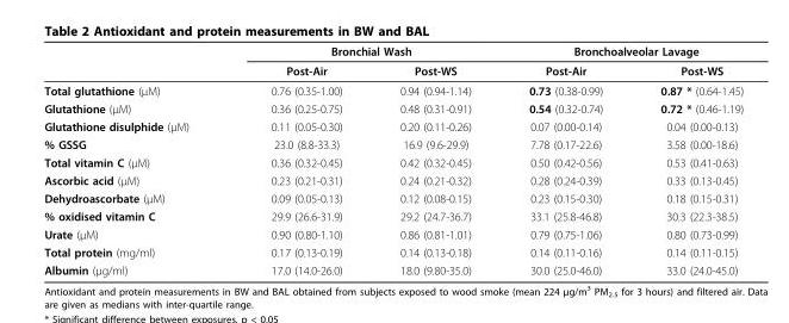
<table><thead><tr><td rowspan="2"></td><td colspan="2">Bronchial Wash</td><td colspan="2">Bronchoalveolar Lavage</td></tr><tr><td>Post-Air</td><td>Post-WS</td><td>Post-Air</td><td>Post-WS</td></tr></thead><tbody><tr><td>Total glutathione (μM)</td><td>0.76 (0.35-1.00)</td><td>0.94 (0.94-1.14)</td><td>0.73 (0.38-0.99)</td><td>0.87 * (0.64-1.45)</td></tr><tr><td>Glutathione (μM)</td><td>0.36 (0.25-0.75)</td><td>0.48 (0.31-0.91)</td><td>0.54 (0.32-0.74)</td><td>0.72 * (0.46-1.19)</td></tr><tr><td>Glutathione disulphide (μM)</td><td>0.11 (0.05-0.30)</td><td>0.20 (0.11-0.26)</td><td>0.07 (0.00-0.14)</td><td>0.04 (0.00-0.13)</td></tr><tr><td>% GSSG</td><td>23.0 (8.8-33.3)</td><td>16.9 (9.6-29.9)</td><td>7.78 (0.17-22.6)</td><td>3.58 (0.00-18.6)</td></tr><tr><td>Total vitamin C (μM)</td><td>0.36 (0.32-0.45)</td><td>0.42 (0.32-0.45)</td><td>0.50 (0.42-0.56)</td><td>0.53 (0.41-0.63)</td></tr><tr><td>Ascorbic acid (μM)</td><td>0.23 (0.21-0.31)</td><td>0.24 (0.21-0.32)</td><td>0.28 (0.24-0.39)</td><td>0.33 (0.13-0.45)</td></tr><tr><td>Dehydroascorbate (μM)</td><td>0.09 (0.05-0.13)</td><td>0.12 (0.08-0.15)</td><td>0.23 (0.15-0.30)</td><td>0.18 (0.15-0.31)</td></tr><tr><td>% oxidised vitamin C</td><td>29.9 (26.6-31.9)</td><td>29.2 (24.7-36.7)</td><td>33.1 (25.8-46.8)</td><td>30.3 (22.3-38.5)</td></tr><tr><td>Urate (μM)</td><td>0.90 (0.80-1.10)</td><td>0.86 (0.81-1.01)</td><td>0.79 (0.75-1.06)</td><td>0.80 (0.73-0.99)</td></tr><tr><td>Total protein (mg/ml)</td><td>0.17 (0.13-0.19)</td><td>0.14 (0.13-0.18)</td><td>0.14 (0.11-0.16)</td><td>0.14 (0.11-0.15)</td></tr><tr><td>Albumin (μg/ml)</td><td>17.0 (14.0-26.0)</td><td>18.0 (9.80-35.0)</td><td>30.0 (25.0-46.0)</td><td>33.0 (24.0-45.0)</td></tr></tbody></table>